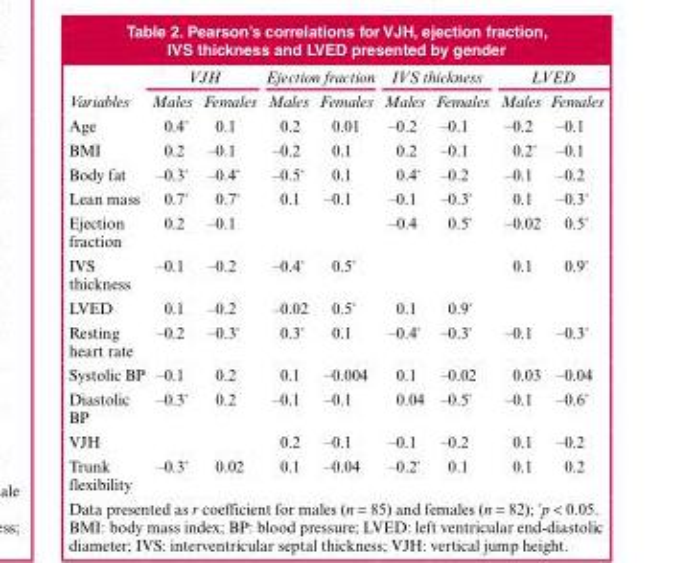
<table><thead><tr><td rowspan="2">Variables</td><td colspan="2">VJH</td><td colspan="2">Ejection fraction</td><td colspan="2">IVS thickness</td><td colspan="2">LVED</td></tr><tr><td>Males</td><td>Females</td><td>Males</td><td>Females</td><td>Males</td><td>Females</td><td>Males</td><td>Females</td></tr></thead><tbody><tr><td>Age</td><td>0.4*</td><td>0.1</td><td>0.2</td><td>0.01</td><td>–0.2</td><td>–0.1</td><td>–0.2</td><td>–0.1</td></tr><tr><td>BMI</td><td>0.2</td><td>–0.1</td><td>–0.2</td><td>0.1</td><td>0.2</td><td>–0.1</td><td>0.2*</td><td>–0.1</td></tr><tr><td>Body fat</td><td>–0.3*</td><td>–0.4*</td><td>–0.5*</td><td>0.1</td><td>0.4*</td><td>–0.2</td><td>–0.1</td><td>–0.2</td></tr><tr><td>Lean mass</td><td>0.7*</td><td>0.7*</td><td>0.1</td><td>–0.1</td><td>–0.1</td><td>–0.3*</td><td>0.1</td><td>–0.3*</td></tr><tr><td>Ejection fraction</td><td>0.2</td><td>–0.1</td><td></td><td></td><td>–0.4</td><td>0.5*</td><td>–0.02</td><td>0.5*</td></tr><tr><td>IVS thickness</td><td>–0.1</td><td>–0.2</td><td>–0.4*</td><td>0.5*</td><td></td><td></td><td>0.1</td><td>0.9*</td></tr><tr><td>LVED</td><td>0.1</td><td>–0.2</td><td>–0.02</td><td>0.5*</td><td>0.1</td><td>0.9*</td><td></td><td></td></tr><tr><td>Resting heart rate</td><td>–0.2</td><td>–0.3*</td><td>0.3*</td><td>0.1</td><td>–0.4*</td><td>–0.3*</td><td>–0.1</td><td>–0.3*</td></tr><tr><td>Systolic BP</td><td>–0.1</td><td>0.2</td><td>0.1</td><td>–0.004</td><td>0.1</td><td>–0.02</td><td>0.03</td><td>–0.04</td></tr><tr><td>Diastolic BP</td><td>–0.3*</td><td>0.2</td><td>–0.1</td><td>–0.1</td><td>0.04</td><td>–0.5*</td><td>–0.1</td><td>–0.6*</td></tr><tr><td>VJH</td><td></td><td></td><td>0.2</td><td>–0.1</td><td>–0.1</td><td>–0.2</td><td>0.1</td><td>–0.2</td></tr><tr><td>Trunk flexibility</td><td>–0.3*</td><td>0.02</td><td>0.1</td><td>–0.04</td><td>–0.2*</td><td>0.1</td><td>0.1</td><td>0.2</td></tr></tbody></table>